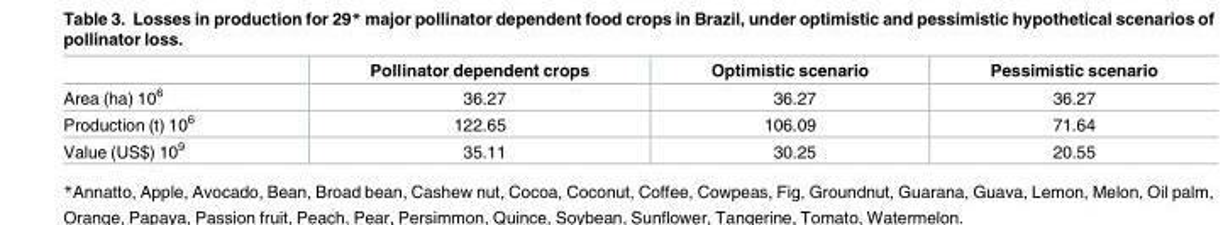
<table><thead><tr><td></td><td>Pollinator dependent crops</td><td>Optimistic scenario</td><td>Pessimistic scenario</td></tr></thead><tbody><tr><td>Area (ha) 10<sup>6</sup></td><td>36.27</td><td>36.27</td><td>36.27</td></tr><tr><td>Production (t) 10<sup>6</sup></td><td>122.65</td><td>106.09</td><td>71.64</td></tr><tr><td>Value (US$) 10<sup>9</sup></td><td>35.11</td><td>30.25</td><td>20.55</td></tr></tbody></table>